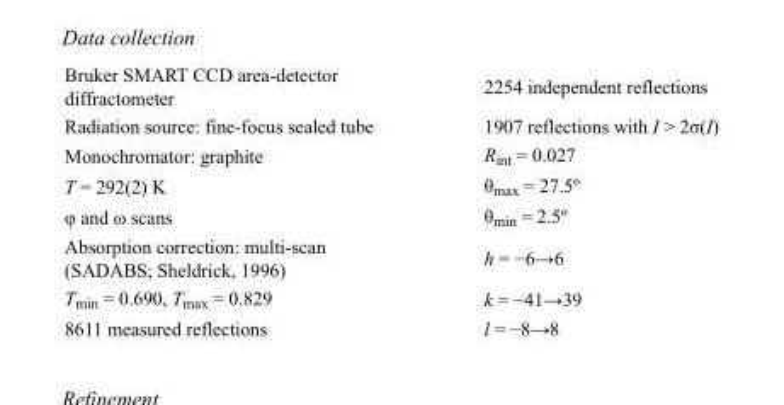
<table><tbody><tr><td>Bruker SMART CCD area-detector diffractometer</td><td>2254 independent reflections</td></tr><tr><td>Radiation source: fine-focus sealed tube</td><td>1907 reflections with I &gt; 2σ(I)</td></tr><tr><td>Monochromator: graphite</td><td>R<sub>int</sub> = 0.027</td></tr><tr><td>T = 292(2) K</td><td>θ<sub>max</sub> = 27.5º</td></tr><tr><td>φ and ω scans</td><td>θ<sub>min</sub> = 2.5º</td></tr><tr><td>Absorption correction: multi-scan (SADABS; Sheldrick, 1996)</td><td>h = −6→6</td></tr><tr><td>T<sub>min</sub> = 0.690, T<sub>max</sub> = 0.829</td><td>k = −41→39</td></tr><tr><td>8611 measured reflections</td><td>l = −8→8</td></tr></tbody></table>